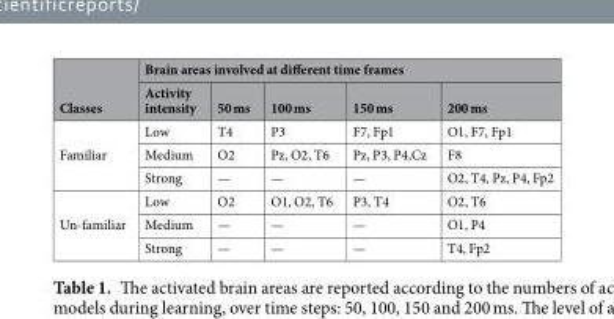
<table><thead><tr><td rowspan="2">Classes</td><td colspan="5">Brain areas involved at different time frames</td></tr><tr><td>Activity intensity</td><td>50 ms</td><td>100 ms</td><td>150 ms</td><td>200 ms</td></tr></thead><tbody><tr><td rowspan="3">Familiar</td><td>Low</td><td>T4</td><td>P3</td><td>F7, Fp1</td><td>O1, F7, Fp1</td></tr><tr><td>Medium</td><td>O2</td><td>Pz, O2, T6</td><td>Pz, P3, P4,Cz</td><td>F8</td></tr><tr><td>Strong</td><td>—</td><td>—</td><td>—</td><td>O2, T4, Pz, P4, Fp2</td></tr><tr><td rowspan="3">Un-familiar</td><td>Low</td><td>O2</td><td>O1, O2, T6</td><td>P3, T4</td><td>O2, T6</td></tr><tr><td>Medium</td><td>—</td><td>—</td><td>—</td><td>O1, P4</td></tr><tr><td>Strong</td><td>—</td><td>—</td><td>—</td><td>T4, Fp2</td></tr></tbody></table>